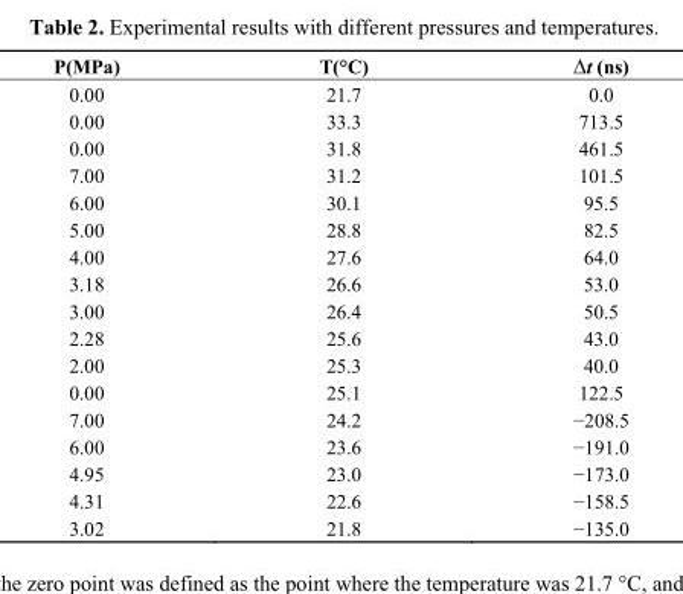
<table><thead><tr><td>P(MPa)</td><td>T(°C)</td><td>∆t (ns)</td></tr></thead><tbody><tr><td>0.00</td><td>21.7</td><td>0.0</td></tr><tr><td>0.00</td><td>33.3</td><td>713.5</td></tr><tr><td>0.00</td><td>31.8</td><td>461.5</td></tr><tr><td>7.00</td><td>31.2</td><td>101.5</td></tr><tr><td>6.00</td><td>30.1</td><td>95.5</td></tr><tr><td>5.00</td><td>28.8</td><td>82.5</td></tr><tr><td>4.00</td><td>27.6</td><td>64.0</td></tr><tr><td>3.18</td><td>26.6</td><td>53.0</td></tr><tr><td>3.00</td><td>26.4</td><td>50.5</td></tr><tr><td>2.28</td><td>25.6</td><td>43.0</td></tr><tr><td>2.00</td><td>25.3</td><td>40.0</td></tr><tr><td>0.00</td><td>25.1</td><td>122.5</td></tr><tr><td>7.00</td><td>24.2</td><td>−208.5</td></tr><tr><td>6.00</td><td>23.6</td><td>−191.0</td></tr><tr><td>4.95</td><td>23.0</td><td>−173.0</td></tr><tr><td>4.31</td><td>22.6</td><td>−158.5</td></tr><tr><td>3.02</td><td>21.8</td><td>−135.0</td></tr></tbody></table>